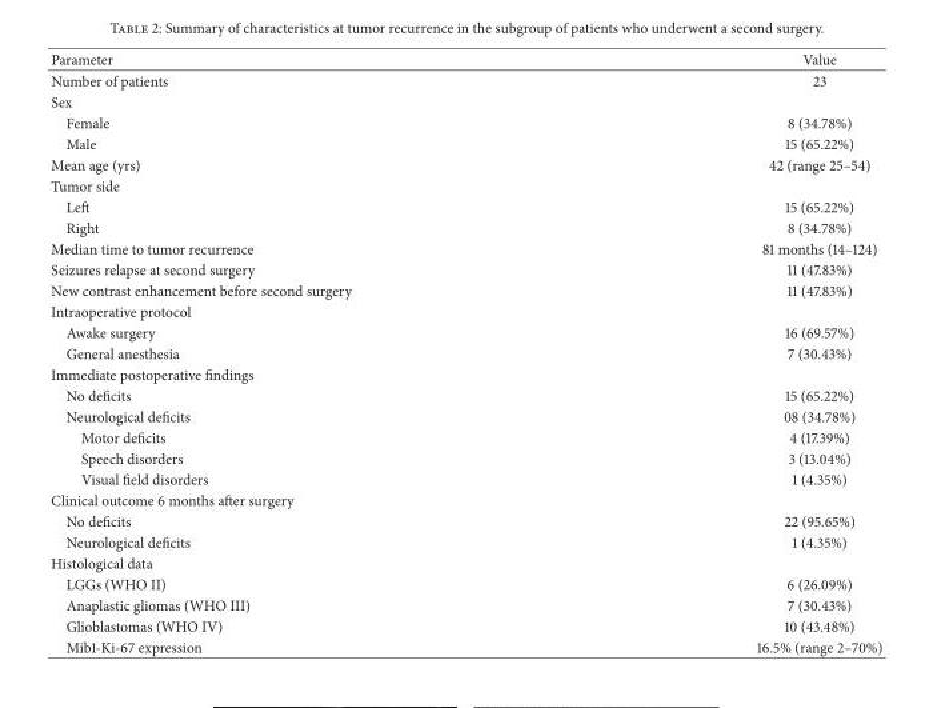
<table><thead><tr><td>Parameter</td><td>Value</td></tr></thead><tbody><tr><td>Number of patients</td><td>23</td></tr><tr><td colspan="2">Sex</td></tr><tr><td>Female</td><td>8 (34.78%)</td></tr><tr><td>Male</td><td>15 (65.22%)</td></tr><tr><td>Mean age (yrs)</td><td>42 (range 25–54)</td></tr><tr><td colspan="2">Tumor side</td></tr><tr><td>Left</td><td>15 (65.22%)</td></tr><tr><td>Right</td><td>8 (34.78%)</td></tr><tr><td>Median time to tumor recurrence</td><td>81 months (14–124)</td></tr><tr><td>Seizures relapse at second surgery</td><td>11 (47.83%)</td></tr><tr><td>New contrast enhancement before second surgery</td><td>11 (47.83%)</td></tr><tr><td colspan="2">Intraoperative protocol</td></tr><tr><td>Awake surgery</td><td>16 (69.57%)</td></tr><tr><td>General anesthesia</td><td>7 (30.43%)</td></tr><tr><td colspan="2">Immediate postoperative findings</td></tr><tr><td>No deficits</td><td>15 (65.22%)</td></tr><tr><td>Neurological deficits</td><td>08 (34.78%)</td></tr><tr><td>Motor deficits</td><td>4 (17.39%)</td></tr><tr><td>Speech disorders</td><td>3 (13.04%)</td></tr><tr><td>Visual field disorders</td><td>1 (4.35%)</td></tr><tr><td colspan="2">Clinical outcome 6 months after surgery</td></tr><tr><td>No deficits</td><td>22 (95.65%)</td></tr><tr><td>Neurological deficits</td><td>1 (4.35%)</td></tr><tr><td colspan="2">Histological data</td></tr><tr><td>LGGs (WHO II)</td><td>6 (26.09%)</td></tr><tr><td>Anaplastic gliomas (WHO III)</td><td>7 (30.43%)</td></tr><tr><td>Glioblastomas (WHO IV)</td><td>10 (43.48%)</td></tr><tr><td>Mib1-Ki-67 expression</td><td>16.5% (range 2–70%)</td></tr></tbody></table>